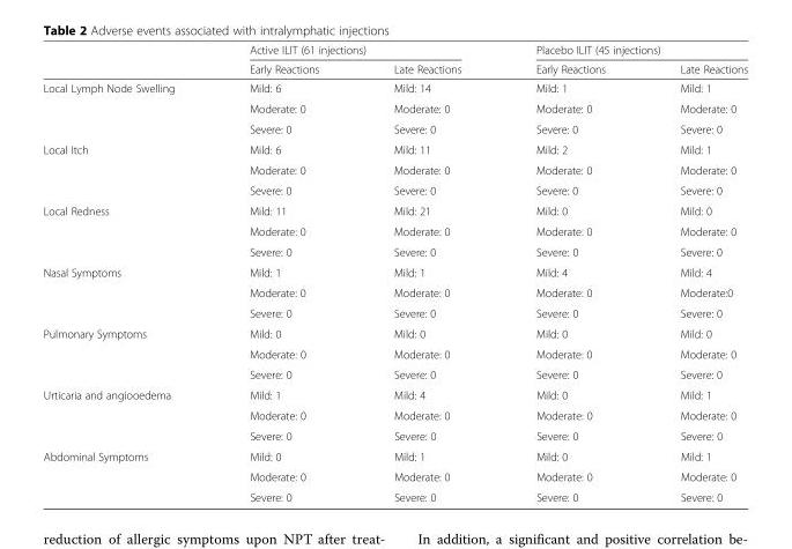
<table><thead><tr><td rowspan="2"></td><td colspan="2">Active ILIT (61 injections)</td><td colspan="2">Placebo ILIT (45 injections)</td></tr><tr><td>Early Reactions</td><td>Late Reactions</td><td>Early Reactions</td><td>Late Reactions</td></tr></thead><tbody><tr><td rowspan="3">Local Lymph Node Swelling</td><td>Mild: 6</td><td>Mild: 14</td><td>Mild: 1</td><td>Mild: 1</td></tr><tr><td>Moderate: 0</td><td>Moderate: 0</td><td>Moderate: 0</td><td>Moderate: 0</td></tr><tr><td>Severe: 0</td><td>Severe: 0</td><td>Severe: 0</td><td>Severe: 0</td></tr><tr><td rowspan="3">Local Itch</td><td>Mild: 6</td><td>Mild: 11</td><td>Mild: 2</td><td>Mild: 1</td></tr><tr><td>Moderate: 0</td><td>Moderate: 0</td><td>Moderate: 0</td><td>Moderate: 0</td></tr><tr><td>Severe: 0</td><td>Severe: 0</td><td>Severe: 0</td><td>Severe: 0</td></tr><tr><td rowspan="3">Local Redness</td><td>Mild: 11</td><td>Mild: 21</td><td>Mild: 0</td><td>Mild: 0</td></tr><tr><td>Moderate: 0</td><td>Moderate: 0</td><td>Moderate: 0</td><td>Moderate: 0</td></tr><tr><td>Severe: 0</td><td>Severe: 0</td><td>Severe: 0</td><td>Severe: 0</td></tr><tr><td rowspan="3">Nasal Symptoms</td><td>Mild: 1</td><td>Mild: 1</td><td>Mild: 4</td><td>Mild: 4</td></tr><tr><td>Moderate: 0</td><td>Moderate: 0</td><td>Moderate: 0</td><td>Moderate:0</td></tr><tr><td>Severe: 0</td><td>Severe: 0</td><td>Severe: 0</td><td>Severe: 0</td></tr><tr><td rowspan="3">Pulmonary Symptoms</td><td>Mild: 0</td><td>Mild: 0</td><td>Mild: 0</td><td>Mild: 0</td></tr><tr><td>Moderate: 0</td><td>Moderate: 0</td><td>Moderate: 0</td><td>Moderate: 0</td></tr><tr><td>Severe: 0</td><td>Severe: 0</td><td>Severe: 0</td><td>Severe: 0</td></tr><tr><td rowspan="3">Urticaria and angiooedema</td><td>Mild: 1</td><td>Mild: 4</td><td>Mild: 0</td><td>Mild: 1</td></tr><tr><td>Moderate: 0</td><td>Moderate: 0</td><td>Moderate: 0</td><td>Moderate: 0</td></tr><tr><td>Severe: 0</td><td>Severe: 0</td><td>Severe: 0</td><td>Severe: 0</td></tr><tr><td rowspan="3">Abdominal Symptoms</td><td>Mild: 0</td><td>Mild: 1</td><td>Mild: 0</td><td>Mild: 1</td></tr><tr><td>Moderate: 0</td><td>Moderate: 0</td><td>Moderate: 0</td><td>Moderate: 0</td></tr><tr><td>Severe: 0</td><td>Severe: 0</td><td>Severe: 0</td><td>Severe: 0</td></tr></tbody></table>